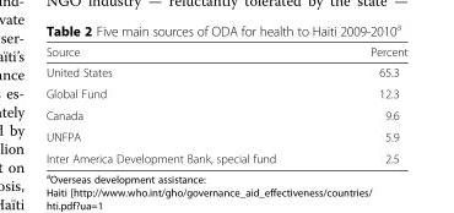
<table><thead><tr><td>Source</td><td>Percent</td></tr></thead><tbody><tr><td>United States</td><td>65.3</td></tr><tr><td>Global Fund</td><td>12.3</td></tr><tr><td>Canada</td><td>9.6</td></tr><tr><td>UNFPA</td><td>5.9</td></tr><tr><td>Inter America Development Bank, special fund</td><td>2.5</td></tr></tbody></table>